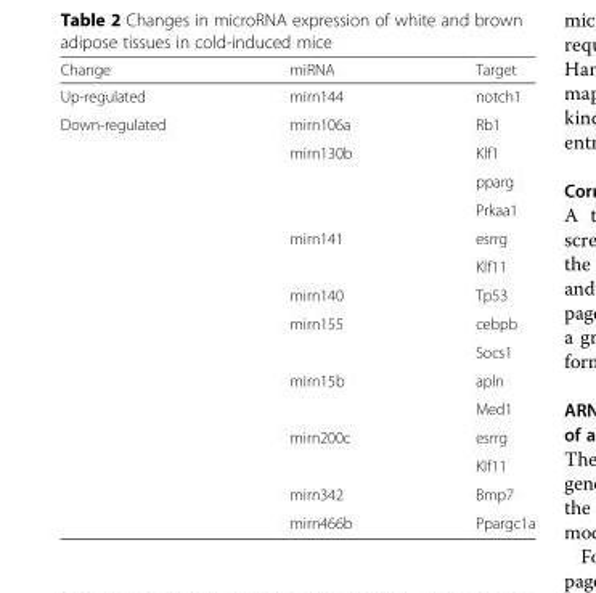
<table><thead><tr><td>Change</td><td>miRNA</td><td>Target</td></tr></thead><tbody><tr><td>Up-regulated</td><td>mirn144</td><td>notch1</td></tr><tr><td rowspan="15">Down-regulated</td><td>mirn106a</td><td>Rb1</td></tr><tr><td rowspan="3">mirn130b</td><td>Klf1</td></tr><tr><td>pparg</td></tr><tr><td>Prkaa1</td></tr><tr><td rowspan="2">mirn141</td><td>esrrg</td></tr><tr><td>Klf11</td></tr><tr><td>mirn140</td><td>Tp53</td></tr><tr><td rowspan="2">mirn155</td><td>cebpb</td></tr><tr><td>Socs1</td></tr><tr><td rowspan="2">mirn15b</td><td>apln</td></tr><tr><td>Med1</td></tr><tr><td rowspan="2">mirn200c</td><td>esrrg</td></tr><tr><td>Klf11</td></tr><tr><td>mirn342</td><td>Bmp7</td></tr><tr><td>mirn466b</td><td>Ppargc1a</td></tr></tbody></table>